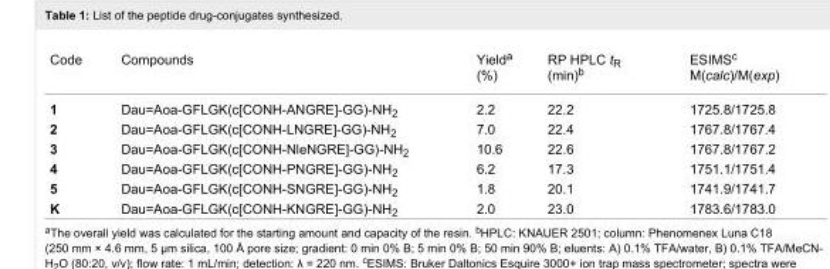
<table><tbody><tr><td>Code</td><td>Compounds</td><td>Yield<sup>a</sup> (%)</td><td>RP HPLC t<sub>R</sub> (min)<sup>b</sup></td><td>ESIMS<sup>c</sup> M(calc)/M(exp)</td></tr><tr><td>1</td><td>Dau=Aoa-GFLGK(c[CONH-ANGRE]-GG)-NH<sub>2</sub></td><td>2.2</td><td>22.2</td><td>1725.8/1725.8</td></tr><tr><td>2</td><td>Dau=Aoa-GFLGK(c[CONH-LNGRE]-GG)-NH<sub>2</sub></td><td>7.0</td><td>22.4</td><td>1767.8/1767.4</td></tr><tr><td>3</td><td>Dau=Aoa-GFLGK(c[CONH-NleNGRE]-GG)-NH<sub>2</sub></td><td>10.6</td><td>22.6</td><td>1767.8/1767.2</td></tr><tr><td>4</td><td>Dau=Aoa-GFLGK(c[CONH-PNGRE]-GG)-NH<sub>2</sub></td><td>6.2</td><td>17.3</td><td>1751.1/1751.4</td></tr><tr><td>5</td><td>Dau=Aoa-GFLGK(c[CONH-SNGRE]-GG)-NH<sub>2</sub></td><td>1.8</td><td>20.1</td><td>1741.9/1741.7</td></tr><tr><td>K</td><td>Dau=Aoa-GFLGK(c[CONH-KNGRE]-GG)-NH<sub>2</sub></td><td>2.0</td><td>23.0</td><td>1783.6/1783.0</td></tr></tbody></table>